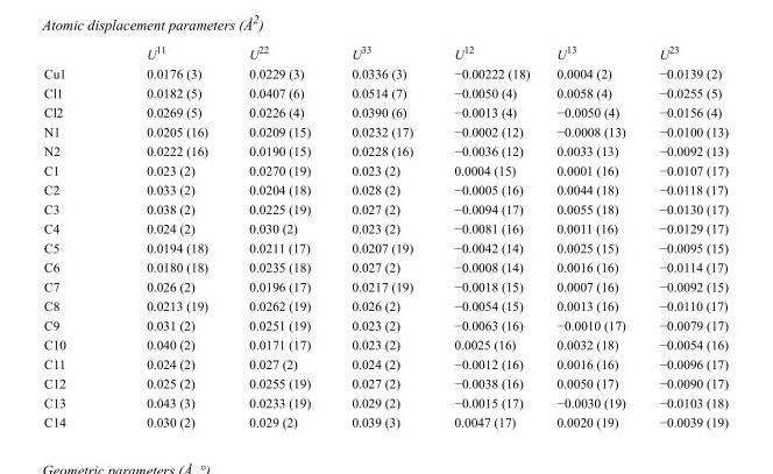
<table><thead><tr><td></td><td>U<sup>11</sup></td><td>U<sup>22</sup></td><td>U<sup>33</sup></td><td>U<sup>12</sup></td><td>U<sup>13</sup></td><td>U<sup>23</sup></td></tr></thead><tbody><tr><td>Cu1</td><td>0.0176 (3)</td><td>0.0229 (3)</td><td>0.0336 (3)</td><td>−0.00222 (18)</td><td>0.0004 (2)</td><td>−0.0139 (2)</td></tr><tr><td>Cl1</td><td>0.0182 (5)</td><td>0.0407 (6)</td><td>0.0514 (7)</td><td>−0.0050 (4)</td><td>0.0058 (4)</td><td>−0.0255 (5)</td></tr><tr><td>Cl2</td><td>0.0269 (5)</td><td>0.0226 (4)</td><td>0.0390 (6)</td><td>−0.0013 (4)</td><td>−0.0050 (4)</td><td>−0.0156 (4)</td></tr><tr><td>N1</td><td>0.0205 (16)</td><td>0.0209 (15)</td><td>0.0232 (17)</td><td>−0.0002 (12)</td><td>−0.0008 (13)</td><td>−0.0100 (13)</td></tr><tr><td>N2</td><td>0.0222 (16)</td><td>0.0190 (15)</td><td>0.0228 (16)</td><td>−0.0036 (12)</td><td>0.0033 (13)</td><td>−0.0092 (13)</td></tr><tr><td>C1</td><td>0.023 (2)</td><td>0.0270 (19)</td><td>0.023 (2)</td><td>0.0004 (15)</td><td>0.0001 (16)</td><td>−0.0107 (17)</td></tr><tr><td>C2</td><td>0.033 (2)</td><td>0.0204 (18)</td><td>0.028 (2)</td><td>−0.0005 (16)</td><td>0.0044 (18)</td><td>−0.0118 (17)</td></tr><tr><td>C3</td><td>0.038 (2)</td><td>0.0225 (19)</td><td>0.027 (2)</td><td>−0.0094 (17)</td><td>0.0055 (18)</td><td>−0.0130 (17)</td></tr><tr><td>C4</td><td>0.024 (2)</td><td>0.030 (2)</td><td>0.023 (2)</td><td>−0.0081 (16)</td><td>0.0011 (16)</td><td>−0.0129 (17)</td></tr><tr><td>C5</td><td>0.0194 (18)</td><td>0.0211 (17)</td><td>0.0207 (19)</td><td>−0.0042 (14)</td><td>0.0025 (15)</td><td>−0.0095 (15)</td></tr><tr><td>C6</td><td>0.0180 (18)</td><td>0.0235 (18)</td><td>0.027 (2)</td><td>−0.0008 (14)</td><td>0.0016 (16)</td><td>−0.0114 (17)</td></tr><tr><td>C7</td><td>0.026 (2)</td><td>0.0196 (17)</td><td>0.0217 (19)</td><td>−0.0018 (15)</td><td>0.0007 (16)</td><td>−0.0092 (15)</td></tr><tr><td>C8</td><td>0.0213 (19)</td><td>0.0262 (19)</td><td>0.026 (2)</td><td>−0.0054 (15)</td><td>0.0013 (16)</td><td>−0.0110 (17)</td></tr><tr><td>C9</td><td>0.031 (2)</td><td>0.0251 (19)</td><td>0.023 (2)</td><td>−0.0063 (16)</td><td>−0.0010 (17)</td><td>−0.0079 (17)</td></tr><tr><td>C10</td><td>0.040 (2)</td><td>0.0171 (17)</td><td>0.023 (2)</td><td>0.0025 (16)</td><td>0.0032 (18)</td><td>−0.0054 (16)</td></tr><tr><td>C11</td><td>0.024 (2)</td><td>0.027 (2)</td><td>0.024 (2)</td><td>−0.0012 (16)</td><td>0.0016 (16)</td><td>−0.0096 (17)</td></tr><tr><td>C12</td><td>0.025 (2)</td><td>0.0255 (19)</td><td>0.027 (2)</td><td>−0.0038 (16)</td><td>0.0050 (17)</td><td>−0.0090 (17)</td></tr><tr><td>C13</td><td>0.043 (3)</td><td>0.0233 (19)</td><td>0.029 (2)</td><td>−0.0015 (17)</td><td>−0.0030 (19)</td><td>−0.0103 (18)</td></tr><tr><td>C14</td><td>0.030 (2)</td><td>0.029 (2)</td><td>0.039 (3)</td><td>0.0047 (17)</td><td>0.0020 (19)</td><td>−0.0039 (19)</td></tr></tbody></table>